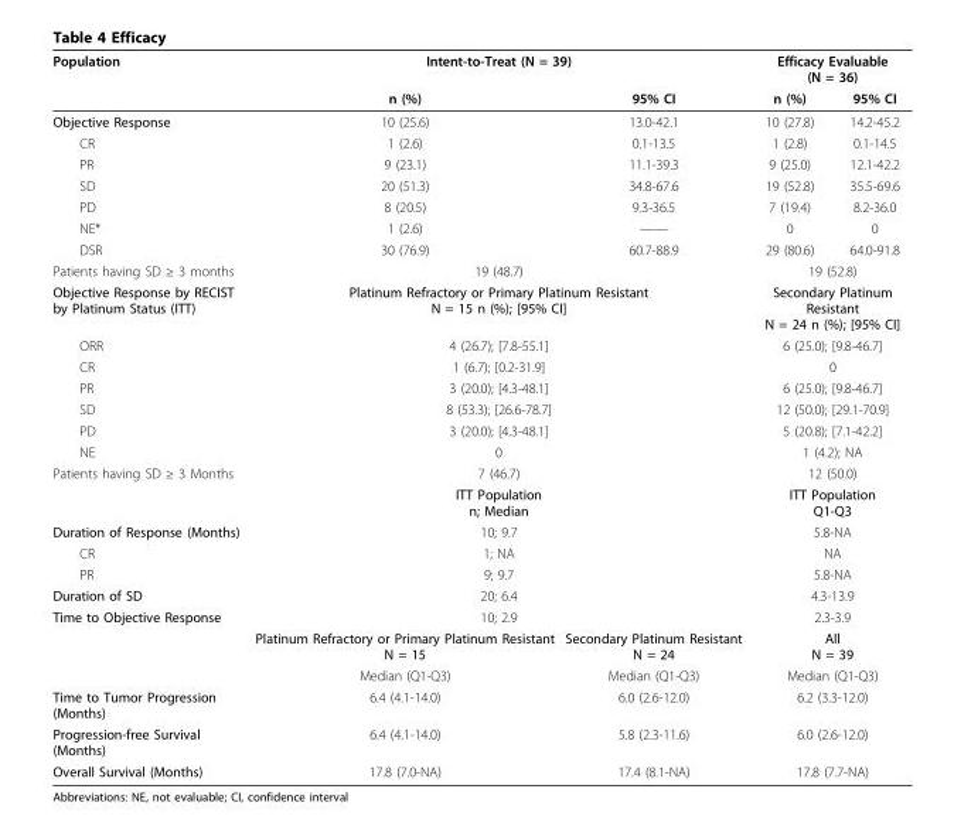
<table><thead><tr><td rowspan="2">Population</td><td colspan="2">Intent-to-Treat (N = 39)</td><td colspan="2">Efficacy Evaluable (N = 36)</td></tr><tr><td>n (%)</td><td>95% CI</td><td>n (%)</td><td>95% CI</td></tr></thead><tbody><tr><td>Objective Response</td><td>10 (25.6)</td><td>13.0-42.1</td><td>10 (27.8)</td><td>14.2-45.2</td></tr><tr><td>CR</td><td>1 (2.6)</td><td>0.1-13.5</td><td>1 (2.8)</td><td>0.1-14.5</td></tr><tr><td>PR</td><td>9 (23.1)</td><td>11.1-39.3</td><td>9 (25.0)</td><td>12.1-42.2</td></tr><tr><td>SD</td><td>20 (51.3)</td><td>34.8-67.6</td><td>19 (52.8)</td><td>35.5-69.6</td></tr><tr><td>PD</td><td>8 (20.5)</td><td>9.3-36.5</td><td>7 (19.4)</td><td>8.2-36.0</td></tr><tr><td>NE*</td><td>1 (2.6)</td><td>——</td><td>0</td><td>0</td></tr><tr><td>DSR</td><td>30 (76.9)</td><td>60.7-88.9</td><td>29 (80.6)</td><td>64.0-91.8</td></tr><tr><td>Patients having SD ≥ 3 months</td><td colspan="2">19 (48.7)</td><td colspan="2">19 (52.8)</td></tr><tr><td>Objective Response by RECIST by Platinum Status (ITT)</td><td colspan="2">Platinum Refractory or Primary Platinum Resistant N = 15 n (%); [95% CI]</td><td colspan="2">Secondary Platinum Resistant N = 24 n (%); [95% CI]</td></tr><tr><td>ORR</td><td colspan="2">4 (26.7); [7.8-55.1]</td><td colspan="2">6 (25.0); [9.8-46.7]</td></tr><tr><td>CR</td><td colspan="2">1 (6.7); [0.2-31.9]</td><td colspan="2">0</td></tr><tr><td>PR</td><td colspan="2">3 (20.0); [4.3-48.1]</td><td colspan="2">6 (25.0); [9.8-46.7]</td></tr><tr><td>SD</td><td colspan="2">8 (53.3); [26.6-78.7]</td><td colspan="2">12 (50.0); [29.1-70.9]</td></tr><tr><td>PD</td><td colspan="2">3 (20.0); [4.3-48.1]</td><td colspan="2">5 (20.8); [7.1-42.2]</td></tr><tr><td>NE</td><td colspan="2">0</td><td colspan="2">1 (4.2); NA</td></tr><tr><td rowspan="2">Patients having SD ≥ 3 Months</td><td colspan="2">7 (46.7)</td><td colspan="2">12 (50.0)</td></tr><tr><td colspan="2">ITT Population n; Median</td><td colspan="2">ITT Population Q1-Q3</td></tr><tr><td>Duration of Response (Months)</td><td colspan="2">10; 9.7</td><td colspan="2">5.8-NA</td></tr><tr><td>CR</td><td colspan="2">1; NA</td><td colspan="2">NA</td></tr><tr><td>PR</td><td colspan="2">9; 9.7</td><td colspan="2">5.8-NA</td></tr><tr><td>Duration of SD</td><td colspan="2">20; 6.4</td><td colspan="2">4.3-13.9</td></tr><tr><td rowspan="3">Time to Objective Response</td><td colspan="2">10; 2.9</td><td colspan="2">2.3-3.9</td></tr><tr><td>Platinum Refractory or Primary Platinum Resistant N = 15</td><td>Secondary Platinum Resistant N = 24</td><td colspan="2">All N = 39</td></tr><tr><td>Median (Q1-Q3)</td><td>Median (Q1-Q3)</td><td colspan="2">Median (Q1-Q3)</td></tr><tr><td>Time to Tumor Progression (Months)</td><td>6.4 (4.1-14.0)</td><td>6.0 (2.6-12.0)</td><td colspan="2">6.2 (3.3-12.0)</td></tr><tr><td>Progression-free Survival (Months)</td><td>6.4 (4.1-14.0)</td><td>5.8 (2.3-11.6)</td><td colspan="2">6.0 (2.6-12.0)</td></tr><tr><td>Overall Survival (Months)</td><td>17.8 (7.0-NA)</td><td>17.4 (8.1-NA)</td><td colspan="2">17.8 (7.7-NA)</td></tr></tbody></table>